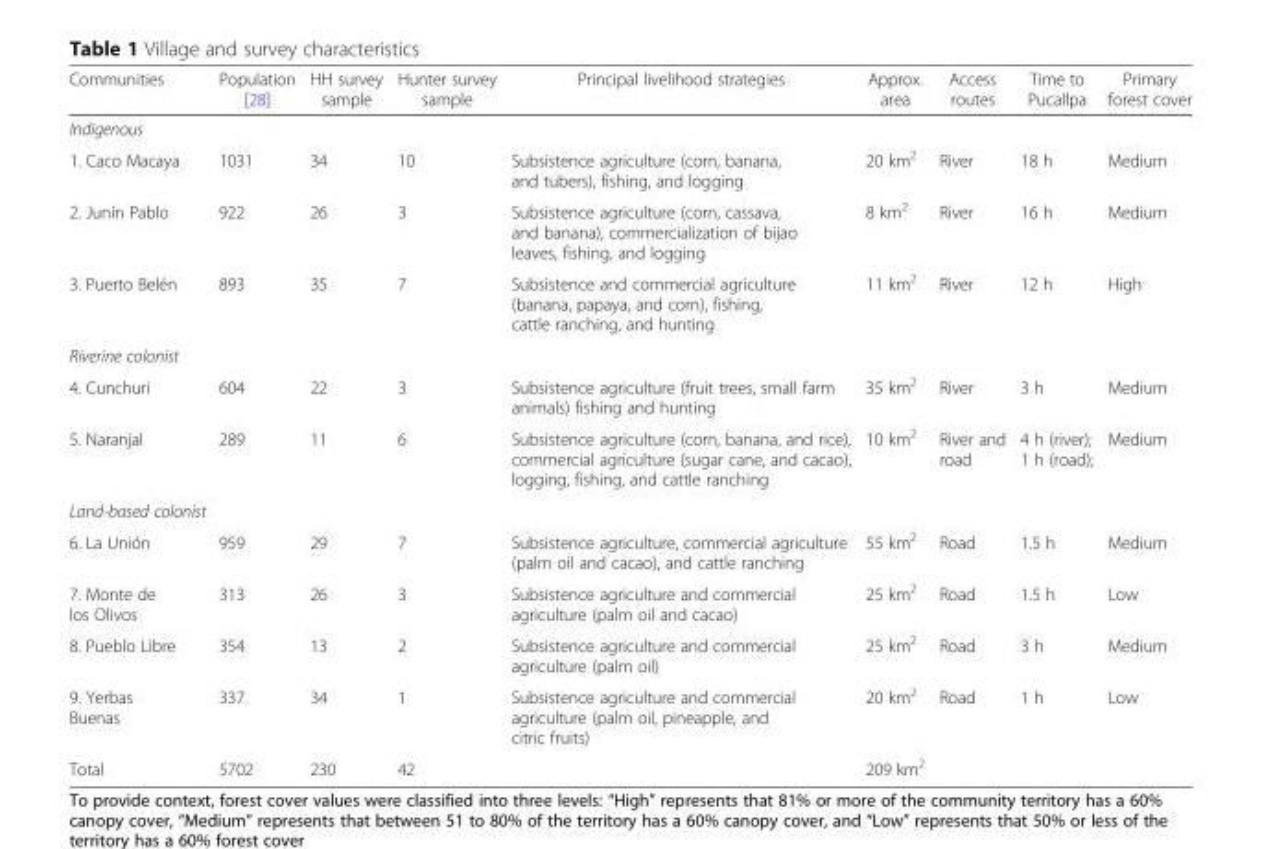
<table><thead><tr><td>Communities</td><td>Population [28]</td><td>HH survey sample</td><td>Hunter survey sample</td><td>Principal livelihood strategies</td><td>Approx. area</td><td>Access routes</td><td>Time to Pucallpa</td><td>Primary forest cover</td></tr></thead><tbody><tr><td colspan="9">Indigenous</td></tr><tr><td>1. Caco Macaya</td><td>1031</td><td>34</td><td>10</td><td>Subsistence agriculture (corn, banana, and tubers), fishing, and logging</td><td>20 km<sup>2</sup></td><td>River</td><td>18 h</td><td>Medium</td></tr><tr><td>2. Junín Pablo</td><td>922</td><td>26</td><td>3</td><td>Subsistence agriculture (corn, cassava, and banana), commercialization of bijao leaves, fishing, and logging</td><td>8 km<sup>2</sup></td><td>River</td><td>16 h</td><td>Medium</td></tr><tr><td>3. Puerto Belén</td><td>893</td><td>35</td><td>7</td><td>Subsistence and commercial agriculture (banana, papaya, and corn), fishing, cattle ranching, and hunting</td><td>11 km<sup>2</sup></td><td>River</td><td>12 h</td><td>High</td></tr><tr><td colspan="9">Riverine colonist</td></tr><tr><td>4. Cunchuri</td><td>604</td><td>22</td><td>3</td><td>Subsistence agriculture (fruit trees, small farm animals) fishing and hunting</td><td>35 km<sup>2</sup></td><td>River</td><td>3 h</td><td>Medium</td></tr><tr><td>5. Naranjal</td><td>289</td><td>11</td><td>6</td><td>Subsistence agriculture (corn, banana, and rice), commercial agriculture (sugar cane, and cacao), logging, fishing, and cattle ranching</td><td>10 km<sup>2</sup></td><td>River and road</td><td>4 h (river); 1 h (road);</td><td>Medium</td></tr><tr><td colspan="9">Land-based colonist</td></tr><tr><td>6. La Unión</td><td>959</td><td>29</td><td>7</td><td>Subsistence agriculture, commercial agriculture (palm oil and cacao), and cattle ranching</td><td>55 km<sup>2</sup></td><td>Road</td><td>1.5 h</td><td>Medium</td></tr><tr><td>7. Monte de los Olivos</td><td>313</td><td>26</td><td>3</td><td>Subsistence agriculture and commercial agriculture (palm oil and cacao)</td><td>25 km<sup>2</sup></td><td>Road</td><td>1.5 h</td><td>Low</td></tr><tr><td>8. Pueblo Libre</td><td>354</td><td>13</td><td>2</td><td>Subsistence agriculture and commercial agriculture (palm oil)</td><td>25 km<sup>2</sup></td><td>Road</td><td>3 h</td><td>Medium</td></tr><tr><td>9. Yerbas Buenas</td><td>337</td><td>34</td><td>1</td><td>Subsistence agriculture and commercial agriculture (palm oil, pineapple, and citric fruits)</td><td>20 km<sup>2</sup></td><td>Road</td><td>1 h</td><td>Low</td></tr><tr><td>Total</td><td>5702</td><td>230</td><td>42</td><td></td><td>209 km<sup>2</sup></td><td></td><td></td><td></td></tr></tbody></table>